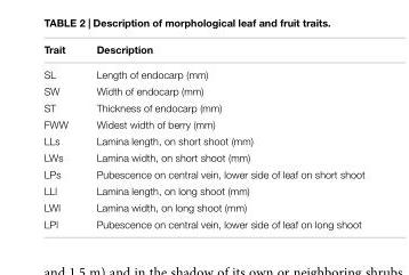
<table><thead><tr><td>Trait</td><td>Description</td></tr></thead><tbody><tr><td>SL</td><td>Length of endocarp (mm)</td></tr><tr><td>SW</td><td>Width of endocarp (mm)</td></tr><tr><td>ST</td><td>Thickness of endocarp (mm)</td></tr><tr><td>FWW</td><td>Widest width of berry (mm)</td></tr><tr><td>LLs</td><td>Lamina length, on short shoot (mm)</td></tr><tr><td>LWs</td><td>Lamina width, on short shoot (mm)</td></tr><tr><td>LPs</td><td>Pubescence on central vein, lower side of leaf on short shoot</td></tr><tr><td>LLl</td><td>Lamina length, on long shoot (mm)</td></tr><tr><td>LWl</td><td>Lamina width, on long shoot (mm)</td></tr><tr><td>LPl</td><td>Pubescence on central vein, lower side of leaf on long shoot</td></tr></tbody></table>